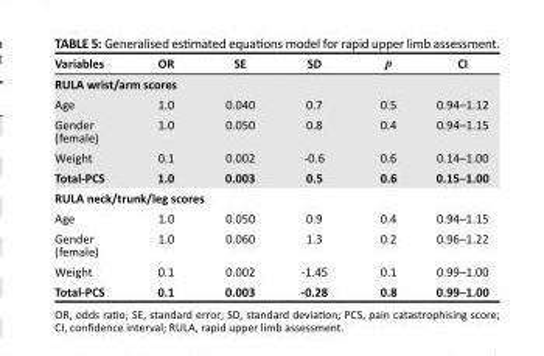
<table><thead><tr><td>Variables</td><td>OR</td><td>SE</td><td>SD</td><td>p</td><td>CI</td></tr></thead><tbody><tr><td colspan="6">RULA wrist/arm scores</td></tr><tr><td>Age</td><td>1.0</td><td>0.040</td><td>0.7</td><td>0.5</td><td>0.94–1.12</td></tr><tr><td>Gender (female)</td><td>1.0</td><td>0.050</td><td>0.8</td><td>0.4</td><td>0.94–1.15</td></tr><tr><td>Weight</td><td>0.1</td><td>0.002</td><td>-0.6</td><td>0.6</td><td>0.14–1.00</td></tr><tr><td>Total-PCS</td><td>1.0</td><td>0.003</td><td>0.5</td><td>0.6</td><td>0.15–1.00</td></tr><tr><td colspan="6">RULA neck/trunk/leg scores</td></tr><tr><td>Age</td><td>1.0</td><td>0.050</td><td>0.9</td><td>0.4</td><td>0.94–1.15</td></tr><tr><td>Gender (female)</td><td>1.0</td><td>0.060</td><td>1.3</td><td>0.2</td><td>0.96–1.22</td></tr><tr><td>Weight</td><td>0.1</td><td>0.002</td><td>-1.45</td><td>0.1</td><td>0.99–1.00</td></tr><tr><td>Total-PCS</td><td>0.1</td><td>0.003</td><td>-0.28</td><td>0.8</td><td>0.99–1.00</td></tr></tbody></table>